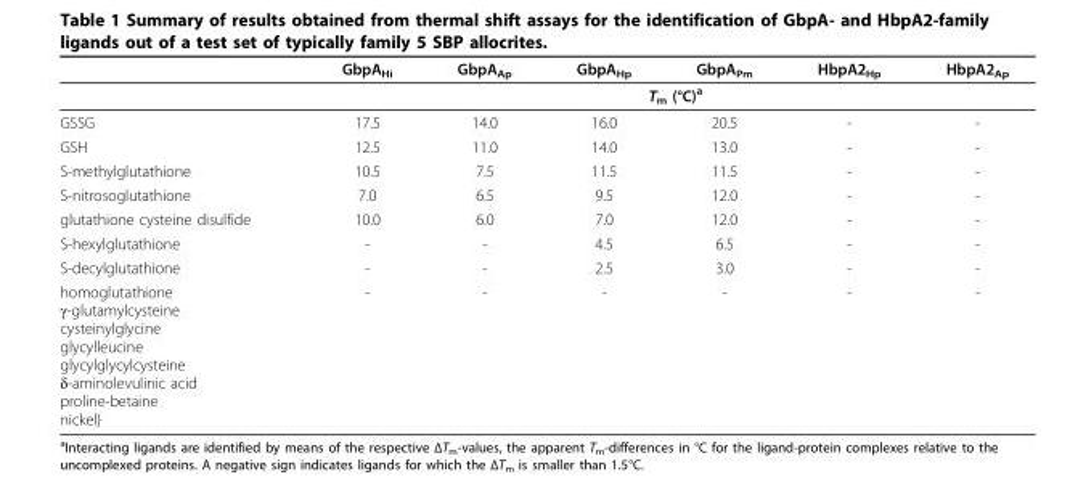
<table><thead><tr><td></td><td>GbpA<sub>Hi</sub></td><td>GbpA<sub>Ap</sub></td><td>GbpA<sub>Hp</sub></td><td>GbpA<sub>Pm</sub></td><td>HbpA2<sub>Hp</sub></td><td>HbpA2<sub>Ap</sub></td></tr></thead><tbody><tr><td></td><td colspan="6">T<sub>m</sub> (°C)<sup>a</sup></td></tr><tr><td>GSSG</td><td>17.5</td><td>14.0</td><td>16.0</td><td>20.5</td><td>-</td><td>-</td></tr><tr><td>GSH</td><td>12.5</td><td>11.0</td><td>14.0</td><td>13.0</td><td>-</td><td>-</td></tr><tr><td>S-methylglutathione</td><td>10.5</td><td>7.5</td><td>11.5</td><td>11.5</td><td>-</td><td>-</td></tr><tr><td>S-nitrosoglutathione</td><td>7.0</td><td>6.5</td><td>9.5</td><td>12.0</td><td>-</td><td>-</td></tr><tr><td>glutathione cysteine disulfide</td><td>10.0</td><td>6.0</td><td>7.0</td><td>12.0</td><td>-</td><td>-</td></tr><tr><td>S-hexylglutathione</td><td>-</td><td>-</td><td>4.5</td><td>6.5</td><td>-</td><td>-</td></tr><tr><td>S-decylglutathione</td><td>-</td><td>-</td><td>2.5</td><td>3.0</td><td>-</td><td>-</td></tr><tr><td>homoglutathione γ-glutamylcysteine cysteinylglycine glycylleucine glycylglycylcysteine δ-aminolevulinic acid proline-betaine nickel}</td><td>-</td><td>-</td><td>-</td><td>-</td><td>-</td><td>-</td></tr></tbody></table>